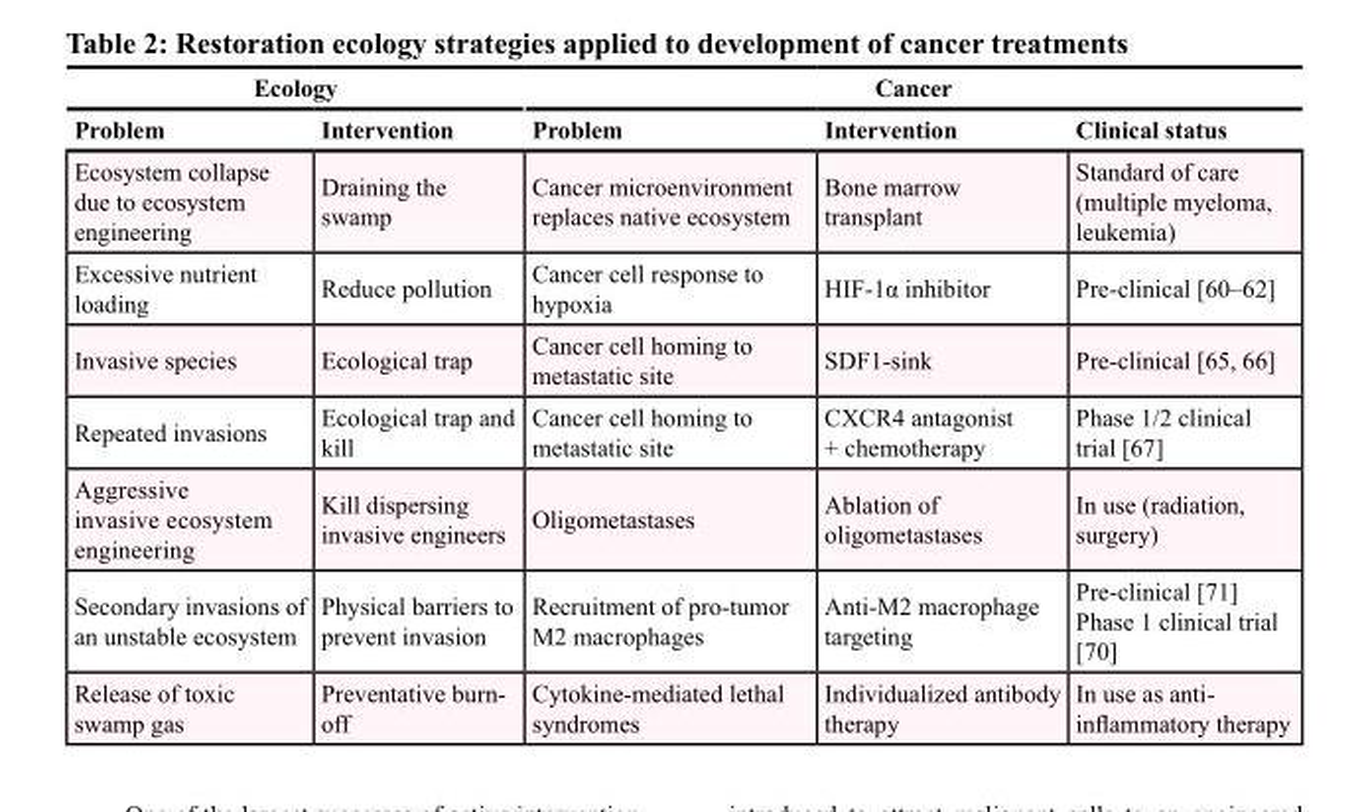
<table><thead><tr><td colspan="2">Ecology</td><td colspan="3">Cancer</td></tr><tr><td>Problem</td><td>Intervention</td><td>Problem</td><td>Intervention</td><td>Clinical status</td></tr></thead><tbody><tr><td>Ecosystem collapse due to ecosystem engineering</td><td>Draining the swamp</td><td>Cancer microenvironment replaces native ecosystem</td><td>Bone marrow transplant</td><td>Standard of care (multiple myeloma, leukemia)</td></tr><tr><td>Excessive nutrient loading</td><td>Reduce pollution</td><td>Cancer cell response to hypoxia</td><td>HIF-1α inhibitor</td><td>Pre-clinical [60–62]</td></tr><tr><td>Invasive species</td><td>Ecological trap</td><td>Cancer cell homing to metastatic site</td><td>SDF1-sink</td><td>Pre-clinical [65, 66]</td></tr><tr><td>Repeated invasions</td><td>Ecological trap and kill</td><td>Cancer cell homing to metastatic site</td><td>CXCR4 antagonist + chemotherapy</td><td>Phase 1/2 clinical trial [67]</td></tr><tr><td>Aggressive invasive ecosystem engineering</td><td>Kill dispersing invasive engineers</td><td>Oligometastases</td><td>Ablation of oligometastases</td><td>In use (radiation, surgery)</td></tr><tr><td>Secondary invasions of an unstable ecosystem</td><td>Physical barriers to prevent invasion</td><td>Recruitment of pro-tumor M2 macrophages</td><td>Anti-M2 macrophage targeting</td><td>Pre-clinical [71] Phase 1 clinical trial [70]</td></tr><tr><td>Release of toxic swamp gas</td><td>Preventative burn- off</td><td>Cytokine-mediated lethal syndromes</td><td>Individualized antibody therapy</td><td>In use as anti- inflammatory therapy</td></tr></tbody></table>